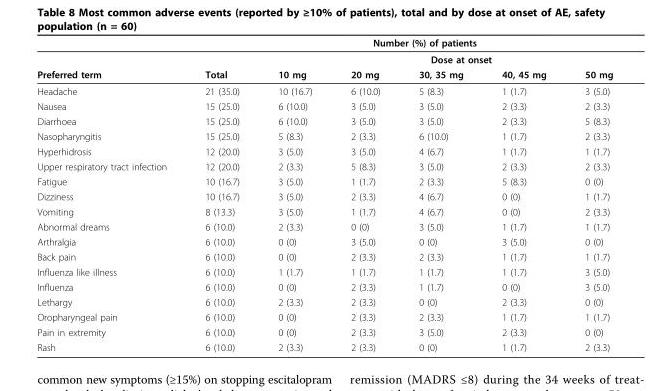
<table><thead><tr><td rowspan="3">Preferred term</td><td colspan="6">Number (%) of patients</td></tr><tr><td rowspan="2">Total</td><td colspan="5">Dose at onset</td></tr><tr><td>10 mg</td><td>20 mg</td><td>30, 35 mg</td><td>40, 45 mg</td><td>50 mg</td></tr></thead><tbody><tr><td>Headache</td><td>21 (35.0)</td><td>10 (16.7)</td><td>6 (10.0)</td><td>5 (8.3)</td><td>1 (1.7)</td><td>3 (5.0)</td></tr><tr><td>Nausea</td><td>15 (25.0)</td><td>6 (10.0)</td><td>3 (5.0)</td><td>3 (5.0)</td><td>2 (3.3)</td><td>2 (3.3)</td></tr><tr><td>Diarrhoea</td><td>15 (25.0)</td><td>6 (10.0)</td><td>3 (5.0)</td><td>3 (5.0)</td><td>2 (3.3)</td><td>5 (8.3)</td></tr><tr><td>Nasopharyngitis</td><td>15 (25.0)</td><td>5 (8.3)</td><td>2 (3.3)</td><td>6 (10.0)</td><td>1 (1.7)</td><td>2 (3.3)</td></tr><tr><td>Hyperhidrosis</td><td>12 (20.0)</td><td>3 (5.0)</td><td>3 (5.0)</td><td>4 (6.7)</td><td>1 (1.7)</td><td>1 (1.7)</td></tr><tr><td>Upper respiratory tract infection</td><td>12 (20.0)</td><td>2 (3.3)</td><td>5 (8.3)</td><td>3 (5.0)</td><td>2 (3.3)</td><td>2 (3.3)</td></tr><tr><td>Fatigue</td><td>10 (16.7)</td><td>3 (5.0)</td><td>1 (1.7)</td><td>2 (3.3)</td><td>5 (8.3)</td><td>0 (0)</td></tr><tr><td>Dizziness</td><td>10 (16.7)</td><td>3 (5.0)</td><td>2 (3.3)</td><td>4 (6.7)</td><td>0 (0)</td><td>1 (1.7)</td></tr><tr><td>Vomiting</td><td>8 (13.3)</td><td>3 (5.0)</td><td>1 (1.7)</td><td>4 (6.7)</td><td>0 (0)</td><td>2 (3.3)</td></tr><tr><td>Abnormal dreams</td><td>6 (10.0)</td><td>2 (3.3)</td><td>0 (0)</td><td>3 (5.0)</td><td>1 (1.7)</td><td>1 (1.7)</td></tr><tr><td>Arthralgia</td><td>6 (10.0)</td><td>0 (0)</td><td>3 (5.0)</td><td>0 (0)</td><td>3 (5.0)</td><td>0 (0)</td></tr><tr><td>Back pain</td><td>6 (10.0)</td><td>0 (0)</td><td>2 (3.3)</td><td>2 (3.3)</td><td>1 (1.7)</td><td>1 (1.7)</td></tr><tr><td>Influenza like illness</td><td>6 (10.0)</td><td>1 (1.7)</td><td>1 (1.7)</td><td>1 (1.7)</td><td>1 (1.7)</td><td>3 (5.0)</td></tr><tr><td>Influenza</td><td>6 (10.0)</td><td>0 (0)</td><td>2 (3.3)</td><td>1 (1.7)</td><td>0 (0)</td><td>3 (5.0)</td></tr><tr><td>Lethargy</td><td>6 (10.0)</td><td>2 (3.3)</td><td>2 (3.3)</td><td>0 (0)</td><td>2 (3.3)</td><td>0 (0)</td></tr><tr><td>Oropharyngeal pain</td><td>6 (10.0)</td><td>0 (0)</td><td>2 (3.3)</td><td>2 (3.3)</td><td>1 (1.7)</td><td>1 (1.7)</td></tr><tr><td>Pain in extremity</td><td>6 (10.0)</td><td>0 (0)</td><td>2 (3.3)</td><td>3 (5.0)</td><td>2 (3.3)</td><td>0 (0)</td></tr><tr><td>Rash</td><td>6 (10.0)</td><td>2 (3.3)</td><td>2 (3.3)</td><td>0 (0)</td><td>1 (1.7)</td><td>2 (3.3)</td></tr></tbody></table>